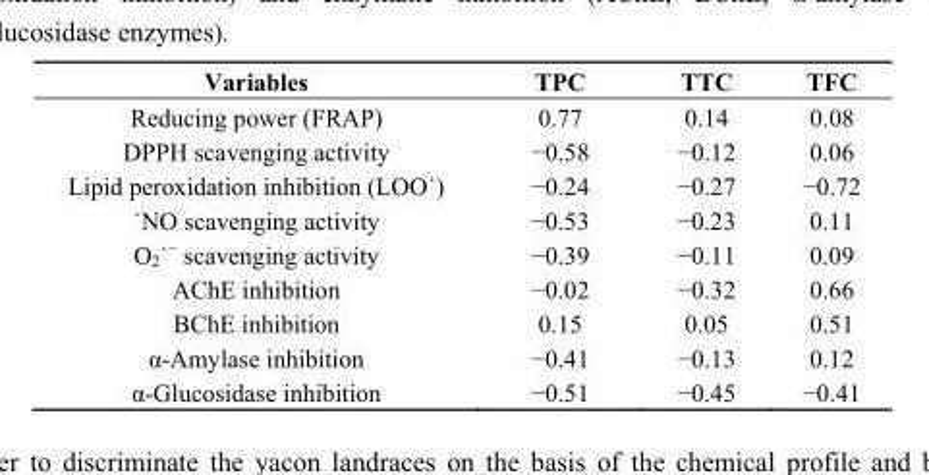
<table><thead><tr><td>Variables</td><td>TPC</td><td>TTC</td><td>TFC</td></tr></thead><tbody><tr><td>Reducing power (FRAP)</td><td>0.77</td><td>0.14</td><td>0.08</td></tr><tr><td>DPPH scavenging activity</td><td>−0.58</td><td>−0.12</td><td>0.06</td></tr><tr><td>Lipid peroxidation inhibition (LOO˙)</td><td>−0.24</td><td>−0.27</td><td>−0.72</td></tr><tr><td>˙NO scavenging activity</td><td>−0.53</td><td>−0.23</td><td>0.11</td></tr><tr><td>O<sub>2</sub>˙<sup>−</sup> scavenging activity</td><td>−0.39</td><td>−0.11</td><td>0.09</td></tr><tr><td>AChE inhibition</td><td>−0.02</td><td>−0.32</td><td>0.66</td></tr><tr><td>BChE inhibition</td><td>0.15</td><td>0.05</td><td>0.51</td></tr><tr><td>α-Amylase inhibition</td><td>−0.41</td><td>−0.13</td><td>0.12</td></tr><tr><td>α-Glucosidase inhibition</td><td>−0.51</td><td>−0.45</td><td>−0.41</td></tr></tbody></table>